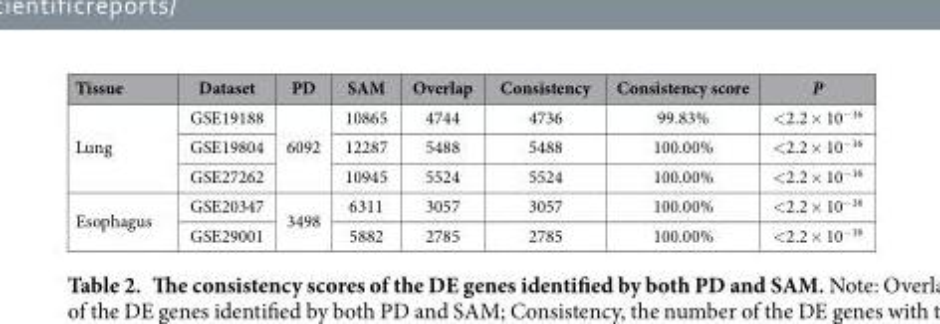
<table><thead><tr><td>Tissue</td><td>Dataset</td><td>PD</td><td>SAM</td><td>Overlap</td><td>Consistency</td><td>Consistency score</td><td>P</td></tr></thead><tbody><tr><td rowspan="3">Lung</td><td>GSE19188</td><td rowspan="3">6092</td><td>10865</td><td>4744</td><td>4736</td><td>99.83%</td><td>&lt; 2.2 × 10<sup>−16</sup></td></tr><tr><td>GSE19804</td><td>12287</td><td>5488</td><td>5488</td><td>100.00%</td><td>&lt; 2.2 × 10<sup>−16</sup></td></tr><tr><td>GSE27262</td><td>10945</td><td>5524</td><td>5524</td><td>100.00%</td><td>&lt; 2.2 × 10<sup>−16</sup></td></tr><tr><td rowspan="2">Esophagus</td><td>GSE20347</td><td rowspan="2">3498</td><td>6311</td><td>3057</td><td>3057</td><td>100.00%</td><td>&lt; 2.2 × 10<sup>−16</sup></td></tr><tr><td>GSE29001</td><td>5882</td><td>2785</td><td>2785</td><td>100.00%</td><td>&lt; 2.2 × 10<sup>−16</sup></td></tr></tbody></table>